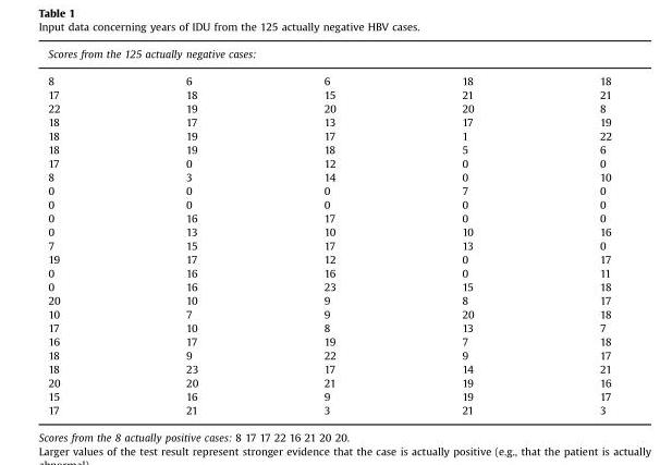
<table><thead><tr><td colspan="5">Scores from the 125 actually negative cases:</td></tr><tr><td>8</td><td>6</td><td>6</td><td>18</td><td>18</td></tr></thead><tbody><tr><td>17</td><td>18</td><td>15</td><td>21</td><td>21</td></tr><tr><td>22</td><td>19</td><td>20</td><td>20</td><td>8</td></tr><tr><td>18</td><td>17</td><td>13</td><td>17</td><td>19</td></tr><tr><td>18</td><td>19</td><td>17</td><td>1</td><td>22</td></tr><tr><td>18</td><td>19</td><td>18</td><td>5</td><td>6</td></tr><tr><td>17</td><td>0</td><td>12</td><td>0</td><td>0</td></tr><tr><td>8</td><td>3</td><td>14</td><td>0</td><td>10</td></tr><tr><td>0</td><td>0</td><td>0</td><td>7</td><td>0</td></tr><tr><td>0</td><td>0</td><td>0</td><td>0</td><td>0</td></tr><tr><td>0</td><td>16</td><td>17</td><td>0</td><td>0</td></tr><tr><td>0</td><td>13</td><td>10</td><td>10</td><td>16</td></tr><tr><td>7</td><td>15</td><td>17</td><td>13</td><td>0</td></tr><tr><td>19</td><td>17</td><td>12</td><td>0</td><td>17</td></tr><tr><td>0</td><td>16</td><td>16</td><td>0</td><td>11</td></tr><tr><td>0</td><td>16</td><td>23</td><td>15</td><td>18</td></tr><tr><td>20</td><td>10</td><td>9</td><td>8</td><td>17</td></tr><tr><td>10</td><td>7</td><td>9</td><td>20</td><td>18</td></tr><tr><td>17</td><td>10</td><td>8</td><td>13</td><td>7</td></tr><tr><td>16</td><td>17</td><td>19</td><td>7</td><td>18</td></tr><tr><td>18</td><td>9</td><td>22</td><td>9</td><td>17</td></tr><tr><td>18</td><td>23</td><td>17</td><td>14</td><td>21</td></tr><tr><td>20</td><td>20</td><td>21</td><td>19</td><td>16</td></tr><tr><td>15</td><td>16</td><td>9</td><td>19</td><td>17</td></tr><tr><td>17</td><td>21</td><td>3</td><td>21</td><td>3</td></tr></tbody></table>